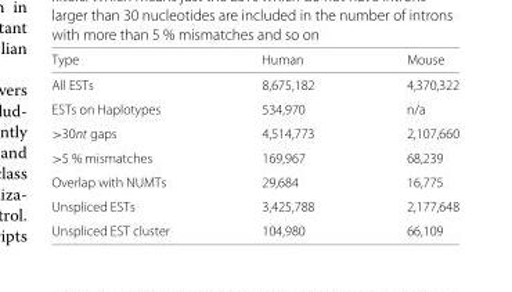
<table><thead><tr><td>Type</td><td>Human</td><td>Mouse</td></tr></thead><tbody><tr><td>All ESTs</td><td>8,675,182</td><td>4,370,322</td></tr><tr><td>ESTs on Haplotypes</td><td>534,970</td><td>n/a</td></tr><tr><td>&gt;30nt gaps</td><td>4,514,773</td><td>2,107,660</td></tr><tr><td>&gt;5 % mismatches</td><td>169,967</td><td>68,239</td></tr><tr><td>Overlap with NUMTs</td><td>29,684</td><td>16,775</td></tr><tr><td>Unspliced ESTs</td><td>3,425,788</td><td>2,177,648</td></tr><tr><td>Unspliced EST cluster</td><td>104,980</td><td>66,109</td></tr></tbody></table>